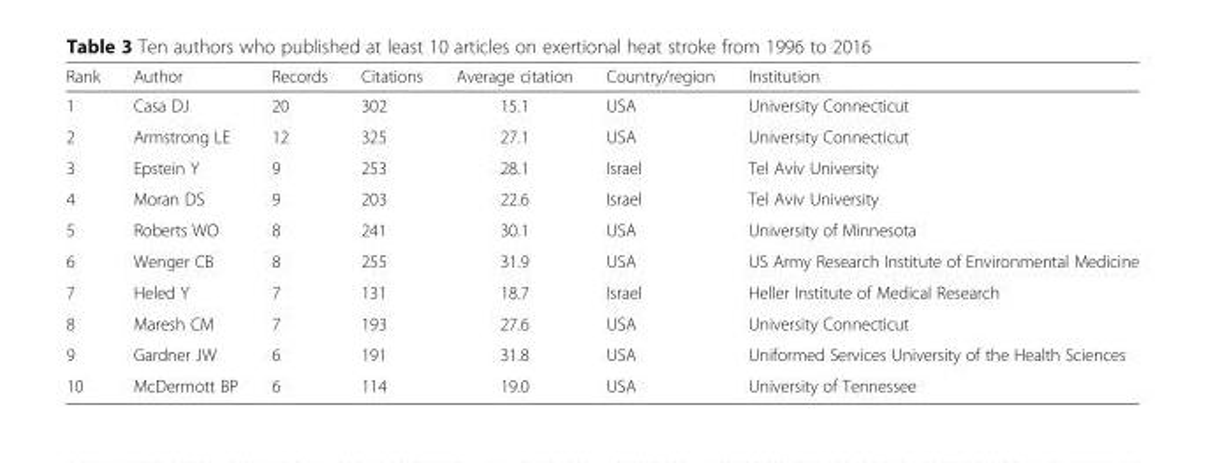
<table><thead><tr><td>Rank</td><td>Author</td><td>Records</td><td>Citations</td><td>Average citation</td><td>Country/region</td><td>Institution</td></tr></thead><tbody><tr><td>1</td><td>Casa DJ</td><td>20</td><td>302</td><td>15.1</td><td>USA</td><td>University Connecticut</td></tr><tr><td>2</td><td>Armstrong LE</td><td>12</td><td>325</td><td>27.1</td><td>USA</td><td>University Connecticut</td></tr><tr><td>3</td><td>Epstein Y</td><td>9</td><td>253</td><td>28.1</td><td>Israel</td><td>Tel Aviv University</td></tr><tr><td>4</td><td>Moran DS</td><td>9</td><td>203</td><td>22.6</td><td>Israel</td><td>Tel Aviv University</td></tr><tr><td>5</td><td>Roberts WO</td><td>8</td><td>241</td><td>30.1</td><td>USA</td><td>University of Minnesota</td></tr><tr><td>6</td><td>Wenger CB</td><td>8</td><td>255</td><td>31.9</td><td>USA</td><td>US Army Research Institute of Environmental Medicine</td></tr><tr><td>7</td><td>Heled Y</td><td>7</td><td>131</td><td>18.7</td><td>Israel</td><td>Heller Institute of Medical Research</td></tr><tr><td>8</td><td>Maresh CM</td><td>7</td><td>193</td><td>27.6</td><td>USA</td><td>University Connecticut</td></tr><tr><td>9</td><td>Gardner JW</td><td>6</td><td>191</td><td>31.8</td><td>USA</td><td>Uniformed Services University of the Health Sciences</td></tr><tr><td>10</td><td>McDermott BP</td><td>6</td><td>114</td><td>19.0</td><td>USA</td><td>University of Tennessee</td></tr></tbody></table>